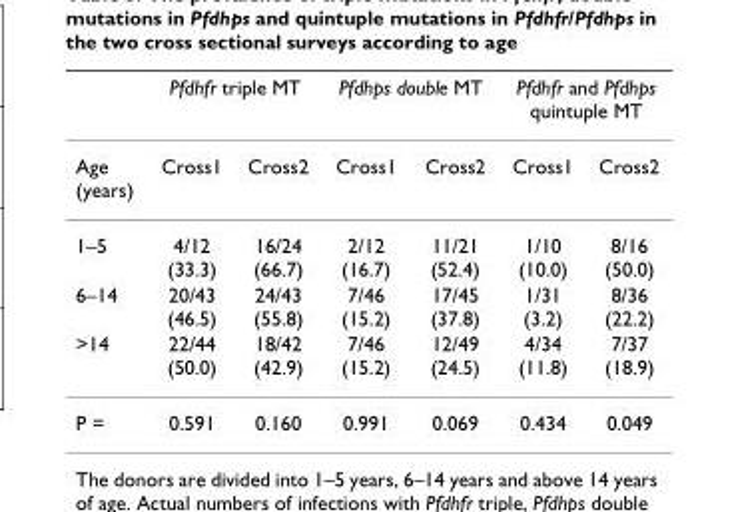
<table><thead><tr><td rowspan="2">Age (years)</td><td colspan="2">Pfdhfr triple MT</td><td colspan="2">Pfdhps double MT</td><td colspan="2">Pfdhfr and Pfdhps quintuple MT</td></tr><tr><td>Cross1</td><td>Cross2</td><td>Cross1</td><td>Cross2</td><td>Cross1</td><td>Cross2</td></tr></thead><tbody><tr><td>1–5</td><td>4/12 (33.3)</td><td>16/24 (66.7)</td><td>2/12 (16.7)</td><td>11/21 (52.4)</td><td>1/10 (10.0)</td><td>8/16 (50.0)</td></tr><tr><td>6–14</td><td>20/43 (46.5)</td><td>24/43 (55.8)</td><td>7/46 (15.2)</td><td>17/45 (37.8)</td><td>1/31 (3.2)</td><td>8/36 (22.2)</td></tr><tr><td>&gt;14</td><td>22/44 (50.0)</td><td>18/42 (42.9)</td><td>7/46 (15.2)</td><td>12/49 (24.5)</td><td>4/34 (11.8)</td><td>7/37 (18.9)</td></tr><tr><td>P =</td><td>0.591</td><td>0.160</td><td>0.991</td><td>0.069</td><td>0.434</td><td>0.049</td></tr></tbody></table>